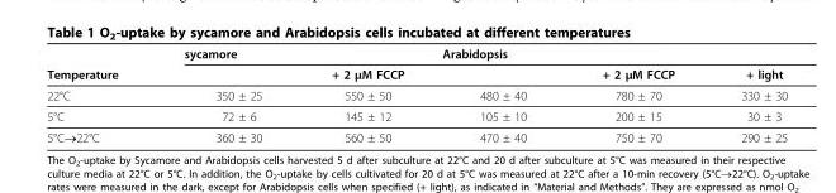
<table><thead><tr><td rowspan="2">Temperature</td><td rowspan="2">sycamore</td><td rowspan="2">+ 2 μM FCCP</td><td rowspan="2">Arabidopsis</td><td rowspan="2">+ 2 μM FCCP</td><td rowspan="2">+ light</td></tr><tr></tr></thead><tbody><tr><td>22°C</td><td>350 ± 25</td><td>550 ± 50</td><td>480 ± 40</td><td>780 ± 70</td><td>330 ± 30</td></tr><tr><td>5°C</td><td>72 ± 6</td><td>145 ± 12</td><td>105 ± 10</td><td>200 ± 15</td><td>30 ± 3</td></tr><tr><td>5°C→22°C</td><td>360 ± 30</td><td>560 ± 50</td><td>470 ± 40</td><td>750 ± 70</td><td>290 ± 25</td></tr></tbody></table>